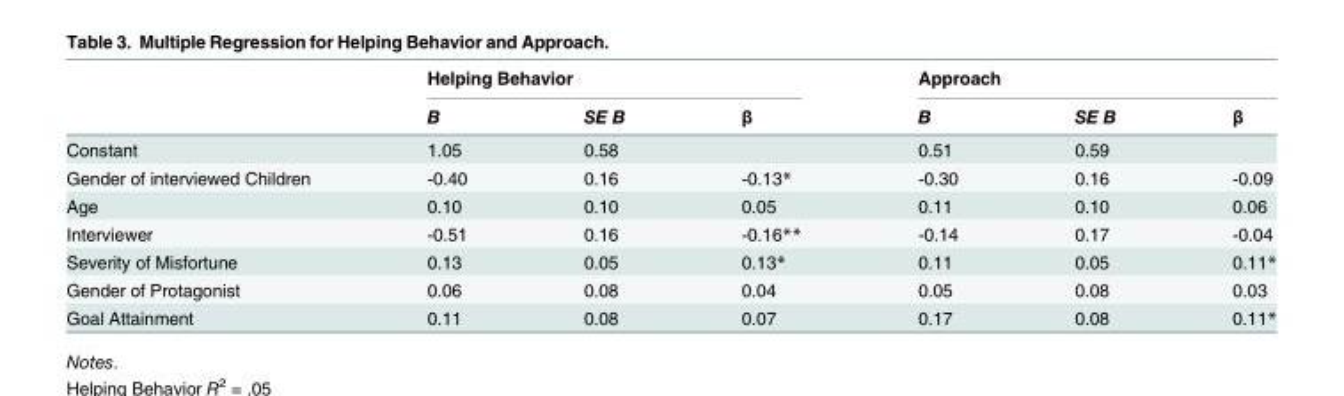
<table><thead><tr><td rowspan="2"></td><td colspan="3">Helping Behavior</td><td colspan="3">Approach</td></tr><tr><td>B</td><td>SE B</td><td>β</td><td>B</td><td>SE B</td><td>β</td></tr></thead><tbody><tr><td>Constant</td><td>1.05</td><td>0.58</td><td></td><td>0.51</td><td>0.59</td><td></td></tr><tr><td>Gender of interviewed Children</td><td>-0.40</td><td>0.16</td><td>-0.13*</td><td>-0.30</td><td>0.16</td><td>-0.09</td></tr><tr><td>Age</td><td>0.10</td><td>0.10</td><td>0.05</td><td>0.11</td><td>0.10</td><td>0.06</td></tr><tr><td>Interviewer</td><td>-0.51</td><td>0.16</td><td>-0.16**</td><td>-0.14</td><td>0.17</td><td>-0.04</td></tr><tr><td>Severity of Misfortune</td><td>0.13</td><td>0.05</td><td>0.13*</td><td>0.11</td><td>0.05</td><td>0.11*</td></tr><tr><td>Gender of Protagonist</td><td>0.06</td><td>0.08</td><td>0.04</td><td>0.05</td><td>0.08</td><td>0.03</td></tr><tr><td>Goal Attainment</td><td>0.11</td><td>0.08</td><td>0.07</td><td>0.17</td><td>0.08</td><td>0.11*</td></tr></tbody></table>